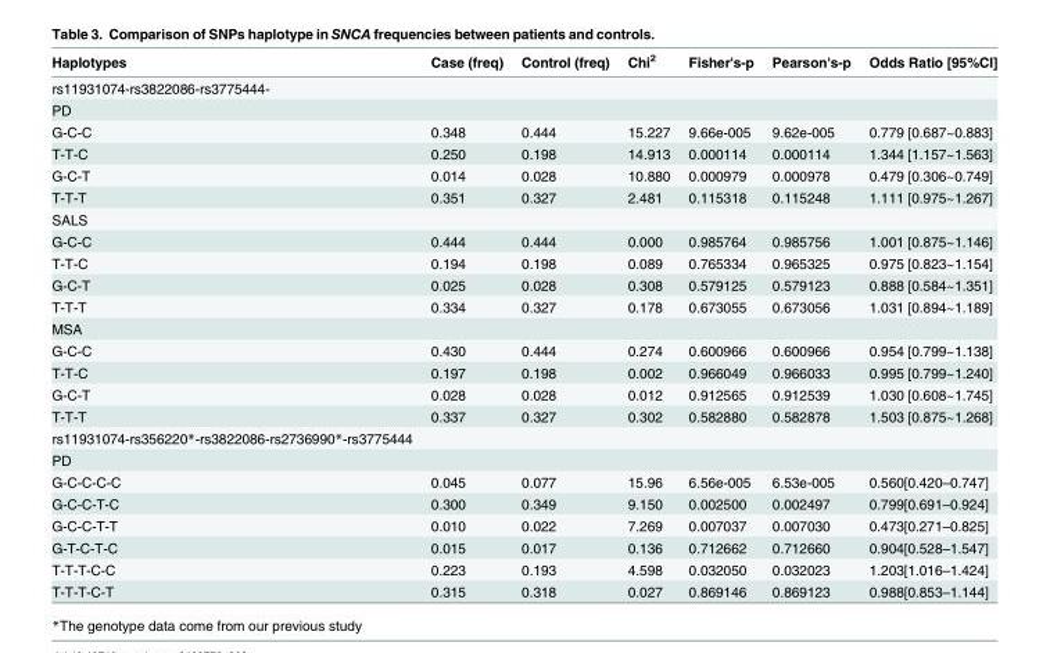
<table><thead><tr><td>Haplotypes</td><td>Case (freq)</td><td>Control (freq)</td><td>Chi<sup>2</sup></td><td>Fisher&#x27;s-p</td><td>Pearson&#x27;s-p</td><td>Odds Ratio [95%CI]</td></tr></thead><tbody><tr><td colspan="7">rs11931074-rs3822086-rs3775444-</td></tr><tr><td colspan="7">PD</td></tr><tr><td>G-C-C</td><td>0.348</td><td>0.444</td><td>15.227</td><td>9.66e-005</td><td>9.62e-005</td><td>0.779 [0.687~0.883]</td></tr><tr><td>T-T-C</td><td>0.250</td><td>0.198</td><td>14.913</td><td>0.000114</td><td>0.000114</td><td>1.344 [1.157~1.563]</td></tr><tr><td>G-C-T</td><td>0.014</td><td>0.028</td><td>10.880</td><td>0.000979</td><td>0.000978</td><td>0.479 [0.306~0.749]</td></tr><tr><td>T-T-T</td><td>0.351</td><td>0.327</td><td>2.481</td><td>0.115318</td><td>0.115248</td><td>1.111 [0.975~1.267]</td></tr><tr><td colspan="7">SALS</td></tr><tr><td>G-C-C</td><td>0.444</td><td>0.444</td><td>0.000</td><td>0.985764</td><td>0.985756</td><td>1.001 [0.875~1.146]</td></tr><tr><td>T-T-C</td><td>0.194</td><td>0.198</td><td>0.089</td><td>0.765334</td><td>0.965325</td><td>0.975 [0.823~1.154]</td></tr><tr><td>G-C-T</td><td>0.025</td><td>0.028</td><td>0.308</td><td>0.579125</td><td>0.579123</td><td>0.888 [0.584~1.351]</td></tr><tr><td>T-T-T</td><td>0.334</td><td>0.327</td><td>0.178</td><td>0.673055</td><td>0.673056</td><td>1.031 [0.894~1.189]</td></tr><tr><td colspan="7">MSA</td></tr><tr><td>G-C-C</td><td>0.430</td><td>0.444</td><td>0.274</td><td>0.600966</td><td>0.600966</td><td>0.954 [0.799~1.138]</td></tr><tr><td>T-T-C</td><td>0.197</td><td>0.198</td><td>0.002</td><td>0.966049</td><td>0.966033</td><td>0.995 [0.799~1.240]</td></tr><tr><td>G-C-T</td><td>0.028</td><td>0.028</td><td>0.012</td><td>0.912565</td><td>0.912539</td><td>1.030 [0.608~1.745]</td></tr><tr><td>T-T-T</td><td>0.337</td><td>0.327</td><td>0.302</td><td>0.582880</td><td>0.582878</td><td>1.503 [0.875~1.268]</td></tr><tr><td colspan="7">rs11931074-rs356220*-rs3822086-rs2736990*-rs3775444</td></tr><tr><td colspan="7">PD</td></tr><tr><td>G-C-C-C-C</td><td>0.045</td><td>0.077</td><td>15.96</td><td>6.56e-005</td><td>6.53e-005</td><td>0.560[0.420–0.747]</td></tr><tr><td>G-C-C-T-C</td><td>0.300</td><td>0.349</td><td>9.150</td><td>0.002500</td><td>0.002497</td><td>0.799[0.691–0.924]</td></tr><tr><td>G-C-C-T-T</td><td>0.010</td><td>0.022</td><td>7.269</td><td>0.007037</td><td>0.007030</td><td>0.473[0.271–0.825]</td></tr><tr><td>G-T-C-T-C</td><td>0.015</td><td>0.017</td><td>0.136</td><td>0.712662</td><td>0.712660</td><td>0.904[0.528–1.547]</td></tr><tr><td>T-T-T-C-C</td><td>0.223</td><td>0.193</td><td>4.598</td><td>0.032050</td><td>0.032023</td><td>1.203[1.016–1.424]</td></tr><tr><td>T-T-T-C-T</td><td>0.315</td><td>0.318</td><td>0.027</td><td>0.869146</td><td>0.869123</td><td>0.988[0.853–1.144]</td></tr></tbody></table>